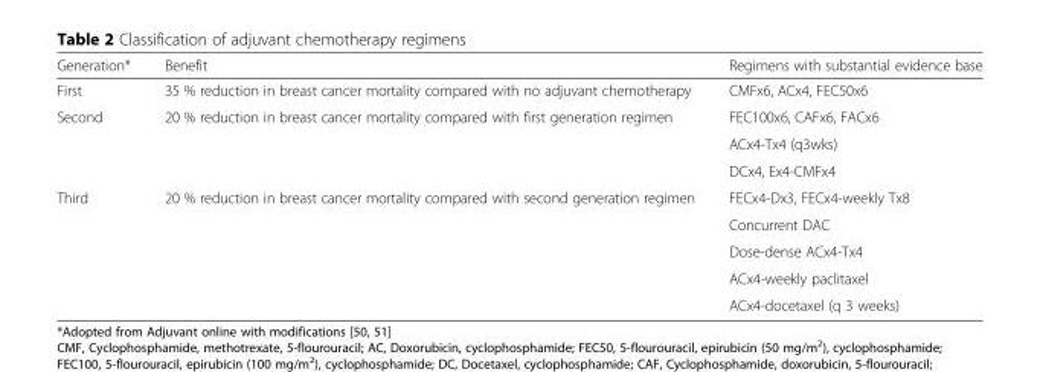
<table><thead><tr><td>Generation*</td><td>Benefit</td><td>Regimens with substantial evidence base</td></tr></thead><tbody><tr><td>First</td><td>35 % reduction in breast cancer mortality compared with no adjuvant chemotherapy</td><td>CMFx6, ACx4, FEC50x6</td></tr><tr><td rowspan="3">Second</td><td rowspan="3">20 % reduction in breast cancer mortality compared with first generation regimen</td><td>FEC100x6, CAFx6, FACx6</td></tr><tr><td>ACx4-Tx4 (q3wks)</td></tr><tr><td>DCx4, Ex4-CMFx4</td></tr><tr><td rowspan="5">Third</td><td rowspan="5">20 % reduction in breast cancer mortality compared with second generation regimen</td><td>FECx4-Dx3, FECx4-weekly Tx8</td></tr><tr><td>Concurrent DAC</td></tr><tr><td>Dose-dense ACx4-Tx4</td></tr><tr><td>ACx4-weekly paclitaxel</td></tr><tr><td>ACx4-docetaxel (q 3 weeks)</td></tr></tbody></table>